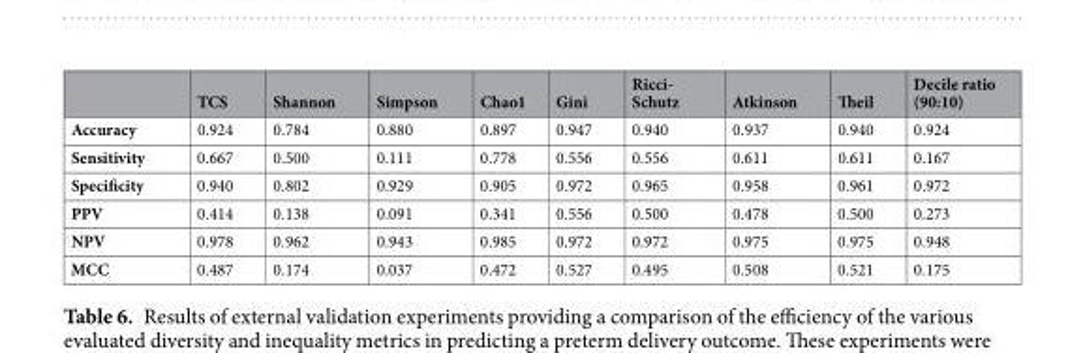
<table><thead><tr><td></td><td>TCS</td><td>Shannon</td><td>Simpson</td><td>Chao1</td><td>Gini</td><td>Ricci- Schutz</td><td>Atkinson</td><td>Theil</td><td>Decile ratio (90:10)</td></tr></thead><tbody><tr><td>Accuracy</td><td>0.924</td><td>0.784</td><td>0.880</td><td>0.897</td><td>0.947</td><td>0.940</td><td>0.937</td><td>0.940</td><td>0.924</td></tr><tr><td>Sensitivity</td><td>0.667</td><td>0.500</td><td>0.111</td><td>0.778</td><td>0.556</td><td>0.556</td><td>0.611</td><td>0.611</td><td>0.167</td></tr><tr><td>Specificity</td><td>0.940</td><td>0.802</td><td>0.929</td><td>0.905</td><td>0.972</td><td>0.965</td><td>0.958</td><td>0.961</td><td>0.972</td></tr><tr><td>PPV</td><td>0.414</td><td>0.138</td><td>0.091</td><td>0.341</td><td>0.556</td><td>0.500</td><td>0.478</td><td>0.500</td><td>0.273</td></tr><tr><td>NPV</td><td>0.978</td><td>0.962</td><td>0.943</td><td>0.985</td><td>0.972</td><td>0.972</td><td>0.975</td><td>0.975</td><td>0.948</td></tr><tr><td>MCC</td><td>0.487</td><td>0.174</td><td>0.037</td><td>0.472</td><td>0.527</td><td>0.495</td><td>0.508</td><td>0.521</td><td>0.175</td></tr></tbody></table>